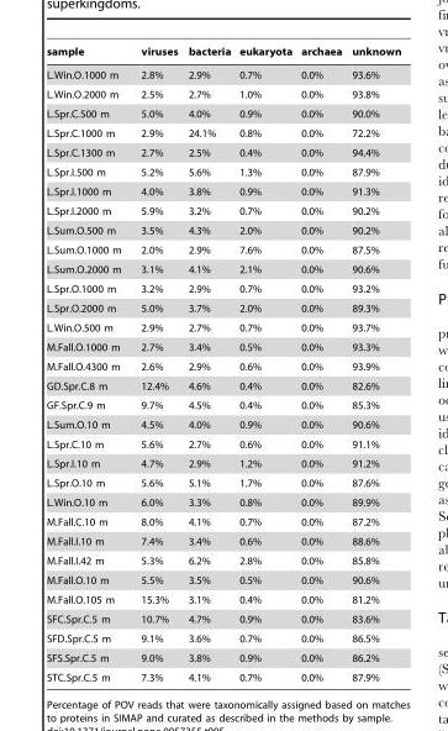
<table><thead><tr><td>sample</td><td>viruses</td><td>bacteria</td><td>eukaryota</td><td>archaea</td><td>unknown</td></tr></thead><tbody><tr><td>L.Win.O.1000 m</td><td>2.8%</td><td>2.9%</td><td>0.7%</td><td>0.0%</td><td>93.6%</td></tr><tr><td>L.Win.O.2000 m</td><td>2.5%</td><td>2.7%</td><td>1.0%</td><td>0.0%</td><td>93.8%</td></tr><tr><td>L.Spr.C.500 m</td><td>5.0%</td><td>4.0%</td><td>0.9%</td><td>0.0%</td><td>90.0%</td></tr><tr><td>L.Spr.C.1000 m</td><td>2.9%</td><td>24.1%</td><td>0.8%</td><td>0.0%</td><td>72.2%</td></tr><tr><td>L.Spr.C.1300 m</td><td>2.7%</td><td>2.5%</td><td>0.4%</td><td>0.0%</td><td>94.4%</td></tr><tr><td>L.Spr.I.500 m</td><td>5.2%</td><td>5.6%</td><td>1.3%</td><td>0.0%</td><td>87.9%</td></tr><tr><td>L.Spr.I.1000 m</td><td>4.0%</td><td>3.8%</td><td>0.9%</td><td>0.0%</td><td>91.3%</td></tr><tr><td>L.Spr.I.2000 m</td><td>5.9%</td><td>3.2%</td><td>0.7%</td><td>0.0%</td><td>90.2%</td></tr><tr><td>L.Sum.O.500 m</td><td>3.5%</td><td>4.3%</td><td>2.0%</td><td>0.0%</td><td>90.2%</td></tr><tr><td>L.Sum.O.1000 m</td><td>2.0%</td><td>2.9%</td><td>7.6%</td><td>0.0%</td><td>87.5%</td></tr><tr><td>L.Sum.O.2000 m</td><td>3.1%</td><td>4.1%</td><td>2.1%</td><td>0.0%</td><td>90.6%</td></tr><tr><td>L.Spr.O.1000 m</td><td>3.2%</td><td>2.9%</td><td>0.7%</td><td>0.0%</td><td>93.2%</td></tr><tr><td>L.Spr.O.2000 m</td><td>5.0%</td><td>3.7%</td><td>2.0%</td><td>0.0%</td><td>89.3%</td></tr><tr><td>L.Win.O.500 m</td><td>2.9%</td><td>2.7%</td><td>0.7%</td><td>0.0%</td><td>93.7%</td></tr><tr><td>M.Fall.O.1000 m</td><td>2.7%</td><td>3.4%</td><td>0.5%</td><td>0.0%</td><td>93.3%</td></tr><tr><td>M.Fall.O.4300 m</td><td>2.6%</td><td>2.9%</td><td>0.6%</td><td>0.0%</td><td>93.9%</td></tr><tr><td>GD.Spr.C.8 m</td><td>12.4%</td><td>4.6%</td><td>0.4%</td><td>0.0%</td><td>82.6%</td></tr><tr><td>GF.Spr.C.9 m</td><td>9.7%</td><td>4.5%</td><td>0.4%</td><td>0.0%</td><td>85.3%</td></tr><tr><td>L.Sum.O.10 m</td><td>4.5%</td><td>4.0%</td><td>0.9%</td><td>0.0%</td><td>90.6%</td></tr><tr><td>L.Spr.C.10 m</td><td>5.6%</td><td>2.7%</td><td>0.6%</td><td>0.0%</td><td>91.1%</td></tr><tr><td>L.Spr.I.10 m</td><td>4.7%</td><td>2.9%</td><td>1.2%</td><td>0.0%</td><td>91.2%</td></tr><tr><td>L.Spr.O.10 m</td><td>5.6%</td><td>5.1%</td><td>1.7%</td><td>0.0%</td><td>87.6%</td></tr><tr><td>L.Win.O.10 m</td><td>6.0%</td><td>3.3%</td><td>0.8%</td><td>0.0%</td><td>89.9%</td></tr><tr><td>M.Fall.C.10 m</td><td>8.0%</td><td>4.1%</td><td>0.7%</td><td>0.0%</td><td>87.2%</td></tr><tr><td>M.Fall.I.10 m</td><td>7.4%</td><td>3.4%</td><td>0.6%</td><td>0.0%</td><td>88.6%</td></tr><tr><td>M.Fall.I.42 m</td><td>5.3%</td><td>6.2%</td><td>2.8%</td><td>0.0%</td><td>85.8%</td></tr><tr><td>M.Fall.O.10 m</td><td>5.5%</td><td>3.5%</td><td>0.5%</td><td>0.0%</td><td>90.6%</td></tr><tr><td>M.Fall.O.105 m</td><td>15.3%</td><td>3.1%</td><td>0.4%</td><td>0.0%</td><td>81.2%</td></tr><tr><td>SFC.Spr.C.5 m</td><td>10.7%</td><td>4.7%</td><td>0.9%</td><td>0.0%</td><td>83.6%</td></tr><tr><td>SFD.Spr.C.5 m</td><td>9.1%</td><td>3.6%</td><td>0.7%</td><td>0.0%</td><td>86.5%</td></tr><tr><td>SFS.Spr.C.5 m</td><td>9.0%</td><td>3.8%</td><td>0.9%</td><td>0.0%</td><td>86.2%</td></tr><tr><td>STC.Spr.C.5 m</td><td>7.3%</td><td>4.1%</td><td>0.7%</td><td>0.0%</td><td>87.9%</td></tr></tbody></table>